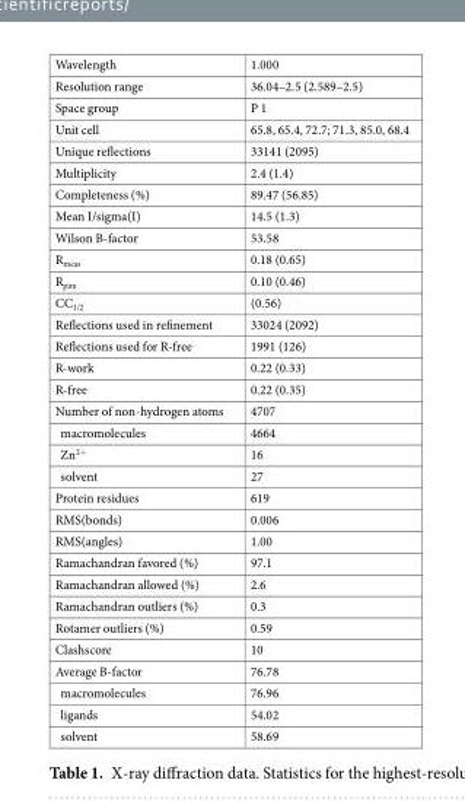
<table><tbody><tr><td>Wavelength</td><td>1.000</td></tr><tr><td>Resolution range</td><td>36.04–2.5 (2.589–2.5)</td></tr><tr><td>Space group</td><td>P 1</td></tr><tr><td>Unit cell</td><td>65.8, 65.4, 72.7; 71.3, 85.0, 68.4</td></tr><tr><td>Unique reflections</td><td>33141 (2095)</td></tr><tr><td>Multiplicity</td><td>2.4 (1.4)</td></tr><tr><td>Completeness (%)</td><td>89.47 (56.85)</td></tr><tr><td>Mean I/sigma(I)</td><td>14.5 (1.3)</td></tr><tr><td>Wilson B-factor</td><td>53.58</td></tr><tr><td>R<sub>meas</sub></td><td>0.18 (0.65)</td></tr><tr><td>R<sub>pim</sub></td><td>0.10 (0.46)</td></tr><tr><td>CC<sub>1/2</sub></td><td>(0.56)</td></tr><tr><td>Reflections used in refinement</td><td>33024 (2092)</td></tr><tr><td>Reflections used for R-free</td><td>1991 (126)</td></tr><tr><td>R-work</td><td>0.22 (0.33)</td></tr><tr><td>R-free</td><td>0.22 (0.35)</td></tr><tr><td>Number of non-hydrogen atoms</td><td>4707</td></tr><tr><td>macromolecules</td><td>4664</td></tr><tr><td>Zn<sup>2+</sup></td><td>16</td></tr><tr><td>solvent</td><td>27</td></tr><tr><td>Protein residues</td><td>619</td></tr><tr><td>RMS(bonds)</td><td>0.006</td></tr><tr><td>RMS(angles)</td><td>1.00</td></tr><tr><td>Ramachandran favored (%)</td><td>97.1</td></tr><tr><td>Ramachandran allowed (%)</td><td>2.6</td></tr><tr><td>Ramachandran outliers (%)</td><td>0.3</td></tr><tr><td>Rotamer outliers (%)</td><td>0.59</td></tr><tr><td>Clashscore</td><td>10</td></tr><tr><td>Average B-factor</td><td>76.78</td></tr><tr><td>macromolecules</td><td>76.96</td></tr><tr><td>ligands</td><td>54.02</td></tr><tr><td>solvent</td><td>58.69</td></tr></tbody></table>